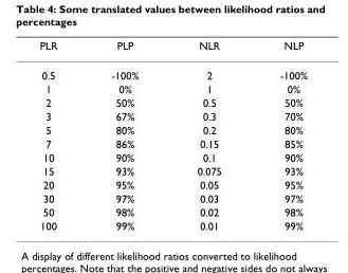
<table><thead><tr><td>PLR</td><td>PLP</td><td>NLR</td><td>NLP</td></tr></thead><tbody><tr><td>0.5</td><td>-100%</td><td>2</td><td>-100%</td></tr><tr><td>1</td><td>0%</td><td>1</td><td>0%</td></tr><tr><td>2</td><td>50%</td><td>0.5</td><td>50%</td></tr><tr><td>3</td><td>67%</td><td>0.3</td><td>70%</td></tr><tr><td>5</td><td>80%</td><td>0.2</td><td>80%</td></tr><tr><td>7</td><td>86%</td><td>0.15</td><td>85%</td></tr><tr><td>10</td><td>90%</td><td>0.1</td><td>90%</td></tr><tr><td>15</td><td>93%</td><td>0.075</td><td>93%</td></tr><tr><td>20</td><td>95%</td><td>0.05</td><td>95%</td></tr><tr><td>30</td><td>97%</td><td>0.03</td><td>97%</td></tr><tr><td>50</td><td>98%</td><td>0.02</td><td>98%</td></tr><tr><td>100</td><td>99%</td><td>0.01</td><td>99%</td></tr></tbody></table>